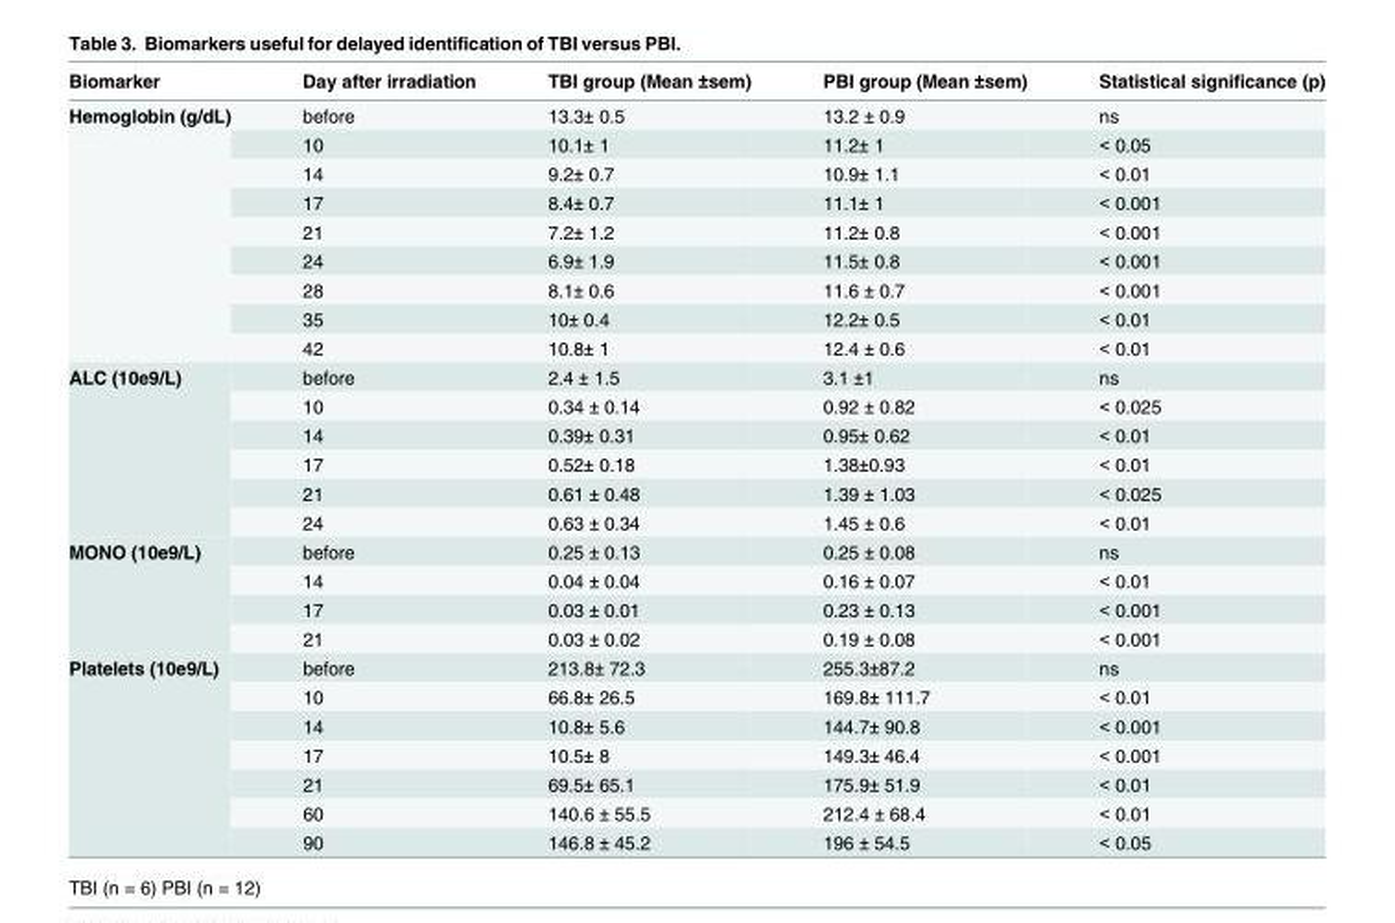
<table><thead><tr><td>Biomarker</td><td>Day after irradiation</td><td>TBI group (Mean ±sem)</td><td>PBI group (Mean ±sem)</td><td>Statistical significance (p)</td></tr></thead><tbody><tr><td rowspan="9">Hemoglobin (g/dL)</td><td>before</td><td>13.3± 0.5</td><td>13.2 ± 0.9</td><td>ns</td></tr><tr><td>10</td><td>10.1± 1</td><td>11.2± 1</td><td>&lt; 0.05</td></tr><tr><td>14</td><td>9.2± 0.7</td><td>10.9± 1.1</td><td>&lt; 0.01</td></tr><tr><td>17</td><td>8.4± 0.7</td><td>11.1± 1</td><td>&lt; 0.001</td></tr><tr><td>21</td><td>7.2± 1.2</td><td>11.2± 0.8</td><td>&lt; 0.001</td></tr><tr><td>24</td><td>6.9± 1.9</td><td>11.5± 0.8</td><td>&lt; 0.001</td></tr><tr><td>28</td><td>8.1± 0.6</td><td>11.6 ± 0.7</td><td>&lt; 0.001</td></tr><tr><td>35</td><td>10± 0.4</td><td>12.2± 0.5</td><td>&lt; 0.01</td></tr><tr><td>42</td><td>10.8± 1</td><td>12.4 ± 0.6</td><td>&lt; 0.01</td></tr><tr><td rowspan="6">ALC (10e9/L)</td><td>before</td><td>2.4 ± 1.5</td><td>3.1 ±1</td><td>ns</td></tr><tr><td>10</td><td>0.34 ± 0.14</td><td>0.92 ± 0.82</td><td>&lt; 0.025</td></tr><tr><td>14</td><td>0.39± 0.31</td><td>0.95± 0.62</td><td>&lt; 0.01</td></tr><tr><td>17</td><td>0.52± 0.18</td><td>1.38±0.93</td><td>&lt; 0.01</td></tr><tr><td>21</td><td>0.61 ± 0.48</td><td>1.39 ± 1.03</td><td>&lt; 0.025</td></tr><tr><td>24</td><td>0.63 ± 0.34</td><td>1.45 ± 0.6</td><td>&lt; 0.01</td></tr><tr><td rowspan="4">MONO (10e9/L)</td><td>before</td><td>0.25 ± 0.13</td><td>0.25 ± 0.08</td><td>ns</td></tr><tr><td>14</td><td>0.04 ± 0.04</td><td>0.16 ± 0.07</td><td>&lt; 0.01</td></tr><tr><td>17</td><td>0.03 ± 0.01</td><td>0.23 ± 0.13</td><td>&lt; 0.001</td></tr><tr><td>21</td><td>0.03 ± 0.02</td><td>0.19 ± 0.08</td><td>&lt; 0.001</td></tr><tr><td rowspan="7">Platelets (10e9/L)</td><td>before</td><td>213.8± 72.3</td><td>255.3±87.2</td><td>ns</td></tr><tr><td>10</td><td>66.8± 26.5</td><td>169.8± 111.7</td><td>&lt; 0.01</td></tr><tr><td>14</td><td>10.8± 5.6</td><td>144.7± 90.8</td><td>&lt; 0.001</td></tr><tr><td>17</td><td>10.5± 8</td><td>149.3± 46.4</td><td>&lt; 0.001</td></tr><tr><td>21</td><td>69.5± 65.1</td><td>175.9± 51.9</td><td>&lt; 0.01</td></tr><tr><td>60</td><td>140.6 ± 55.5</td><td>212.4 ± 68.4</td><td>&lt; 0.01</td></tr><tr><td>90</td><td>146.8 ± 45.2</td><td>196 ± 54.5</td><td>&lt; 0.05</td></tr></tbody></table>